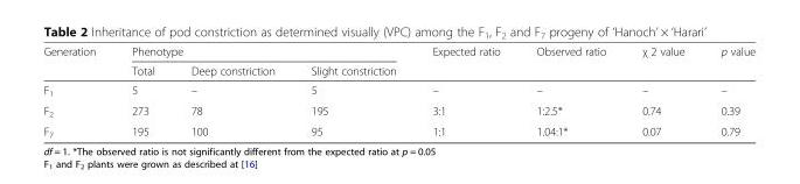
<table><thead><tr><td rowspan="2">Generation</td><td colspan="3">Phenotype</td><td rowspan="2">Expected ratio</td><td rowspan="2">Observed ratio</td><td rowspan="2">χ 2 value</td><td rowspan="2">p value</td></tr><tr><td>Total</td><td>Deep constriction</td><td>Slight constriction</td></tr></thead><tbody><tr><td>F<sub>1</sub></td><td>5</td><td>–</td><td>5</td><td>–</td><td>–</td><td>–</td><td>–</td></tr><tr><td>F<sub>2</sub></td><td>273</td><td>78</td><td>195</td><td>3:1</td><td>1:2.5*</td><td>0.74</td><td>0.39</td></tr><tr><td>F<sub>7</sub></td><td>195</td><td>100</td><td>95</td><td>1:1</td><td>1.04:1*</td><td>0.07</td><td>0.79</td></tr></tbody></table>